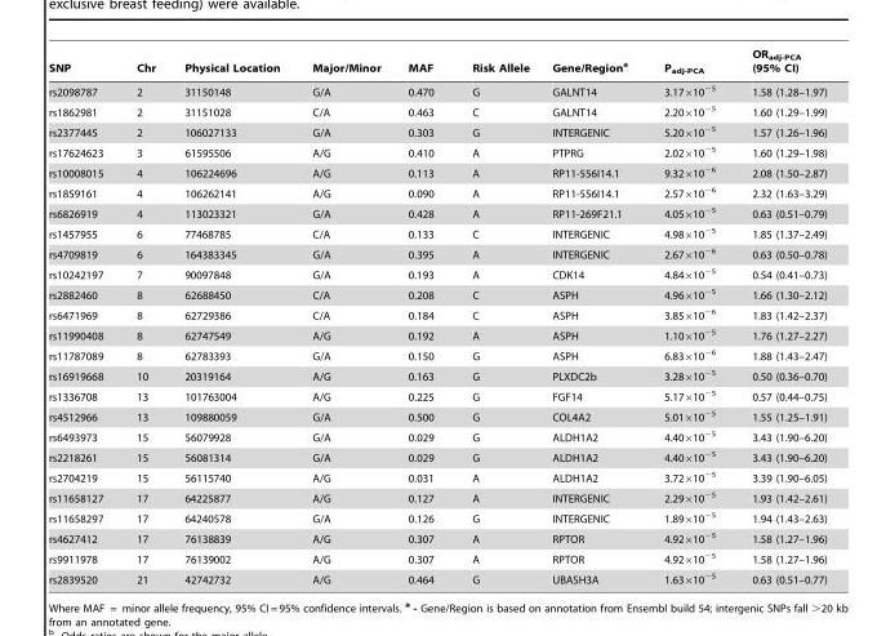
<table><thead><tr><td>SNP</td><td>Chr</td><td>Physical Location</td><td>Major/Minor</td><td>MAF</td><td>Risk Allele</td><td>Gene/Region<sup>a</sup></td><td>P<sub>adj-PCA</sub></td><td>OR<sub>adj-PCA</sub> (95% CI)</td></tr></thead><tbody><tr><td>rs2098787</td><td>2</td><td>31150148</td><td>G/A</td><td>0.470</td><td>G</td><td>GALNT14</td><td>3.17×10<sup>−5</sup></td><td>1.58 (1.28–1.97)</td></tr><tr><td>rs1862981</td><td>2</td><td>31151028</td><td>C/A</td><td>0.463</td><td>C</td><td>GALNT14</td><td>2.20×10<sup>−5</sup></td><td>1.60 (1.29–1.99)</td></tr><tr><td>rs2377445</td><td>2</td><td>106027133</td><td>G/A</td><td>0.303</td><td>G</td><td>INTERGENIC</td><td>5.20×10<sup>−5</sup></td><td>1.57 (1.26–1.96)</td></tr><tr><td>rs17624623</td><td>3</td><td>61595506</td><td>A/G</td><td>0.410</td><td>A</td><td>PTPRG</td><td>2.02×10<sup>−5</sup></td><td>1.60 (1.29–1.98)</td></tr><tr><td>rs10008015</td><td>4</td><td>106224696</td><td>A/G</td><td>0.113</td><td>A</td><td>RP11-556I14.1</td><td>9.32×10<sup>−6</sup></td><td>2.08 (1.50–2.87)</td></tr><tr><td>rs1859161</td><td>4</td><td>106262141</td><td>A/G</td><td>0.090</td><td>A</td><td>RP11-556I14.1</td><td>2.57×10<sup>−6</sup></td><td>2.32 (1.63–3.29)</td></tr><tr><td>rs6826919</td><td>4</td><td>113023321</td><td>G/A</td><td>0.428</td><td>A</td><td>RP11-269F21.1</td><td>4.05×10<sup>−5</sup></td><td>0.63 (0.51–0.79)</td></tr><tr><td>rs1457955</td><td>6</td><td>77468785</td><td>C/A</td><td>0.133</td><td>C</td><td>INTERGENIC</td><td>4.98×10<sup>−5</sup></td><td>1.85 (1.37–2.49)</td></tr><tr><td>rs4709819</td><td>6</td><td>164383345</td><td>G/A</td><td>0.395</td><td>A</td><td>INTERGENIC</td><td>2.67×10<sup>−6</sup></td><td>0.63 (0.50–0.78)</td></tr><tr><td>rs10242197</td><td>7</td><td>90097848</td><td>G/A</td><td>0.193</td><td>A</td><td>CDK14</td><td>4.84×10<sup>−5</sup></td><td>0.54 (0.41–0.73)</td></tr><tr><td>rs2882460</td><td>8</td><td>62688450</td><td>C/A</td><td>0.208</td><td>C</td><td>ASPH</td><td>4.96×10<sup>−5</sup></td><td>1.66 (1.30–2.12)</td></tr><tr><td>rs6471969</td><td>8</td><td>62729386</td><td>C/A</td><td>0.184</td><td>C</td><td>ASPH</td><td>3.85×10<sup>−6</sup></td><td>1.83 (1.42–2.37)</td></tr><tr><td>rs11990408</td><td>8</td><td>62747549</td><td>A/G</td><td>0.192</td><td>A</td><td>ASPH</td><td>1.10×10<sup>−5</sup></td><td>1.76 (1.27–2.27)</td></tr><tr><td>rs11787089</td><td>8</td><td>62783393</td><td>G/A</td><td>0.150</td><td>G</td><td>ASPH</td><td>6.83×10<sup>−6</sup></td><td>1.88 (1.43–2.47)</td></tr><tr><td>rs16919668</td><td>10</td><td>20319164</td><td>A/G</td><td>0.163</td><td>G</td><td>PLXDC2b</td><td>3.28×10<sup>−5</sup></td><td>0.50 (0.36–0.70)</td></tr><tr><td>rs1336708</td><td>13</td><td>101763004</td><td>A/G</td><td>0.225</td><td>G</td><td>FGF14</td><td>5.17×10<sup>−5</sup></td><td>0.57 (0.44–0.75)</td></tr><tr><td>rs4512966</td><td>13</td><td>109880059</td><td>G/A</td><td>0.500</td><td>G</td><td>COL4A2</td><td>5.01×10<sup>−5</sup></td><td>1.55 (1.25–1.91)</td></tr><tr><td>rs6493973</td><td>15</td><td>56079928</td><td>G/A</td><td>0.029</td><td>G</td><td>ALDH1A2</td><td>4.40×10<sup>−5</sup></td><td>3.43 (1.90–6.20)</td></tr><tr><td>rs2218261</td><td>15</td><td>56081314</td><td>G/A</td><td>0.029</td><td>G</td><td>ALDH1A2</td><td>4.40×10<sup>−5</sup></td><td>3.43 (1.90–6.20)</td></tr><tr><td>rs2704219</td><td>15</td><td>56115740</td><td>A/G</td><td>0.031</td><td>A</td><td>ALDH1A2</td><td>3.72×10<sup>−5</sup></td><td>3.39 (1.90–6.05)</td></tr><tr><td>rs11658127</td><td>17</td><td>64225877</td><td>A/G</td><td>0.127</td><td>A</td><td>INTERGENIC</td><td>2.29×10<sup>−5</sup></td><td>1.93 (1.42–2.61)</td></tr><tr><td>rs11658297</td><td>17</td><td>64240578</td><td>G/A</td><td>0.126</td><td>G</td><td>INTERGENIC</td><td>1.89×10<sup>−5</sup></td><td>1.94 (1.43–2.63)</td></tr><tr><td>rs4627412</td><td>17</td><td>76138839</td><td>A/G</td><td>0.307</td><td>A</td><td>RPTOR</td><td>4.92×10<sup>−5</sup></td><td>1.58 (1.27–1.96)</td></tr><tr><td>rs9911978</td><td>17</td><td>76139002</td><td>A/G</td><td>0.307</td><td>A</td><td>RPTOR</td><td>4.92×10<sup>−5</sup></td><td>1.58 (1.27–1.96)</td></tr><tr><td>rs2839520</td><td>21</td><td>42742732</td><td>A/G</td><td>0.464</td><td>G</td><td>UBASH3A</td><td>1.63×10<sup>−5</sup></td><td>0.63 (0.51–0.77)</td></tr></tbody></table>